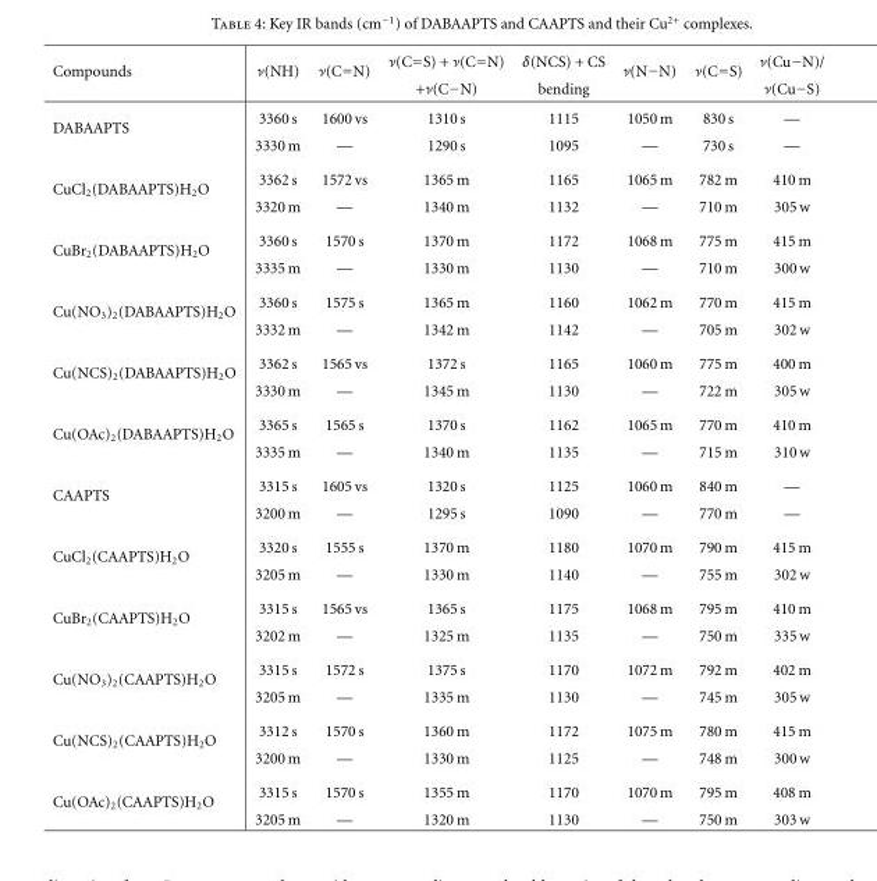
<table><tbody><tr><td rowspan="2">Compounds</td><td rowspan="2">ν(NH)</td><td rowspan="2">ν(C=N)</td><td>ν(C=S) + ν(C=N)</td><td>δ(NCS) + CS</td><td rowspan="2">ν(N−N)</td><td rowspan="2">ν(C=S)</td><td>ν(Cu−N)/</td></tr><tr><td>+ν(C−N)</td><td>bending</td><td>ν(Cu−S)</td></tr><tr><td rowspan="2">DABAAPTS</td><td>3360 s</td><td>1600 vs</td><td>1310 s</td><td>1115</td><td>1050 m</td><td>830 s</td><td>—</td></tr><tr><td>3330 m</td><td>—</td><td>1290 s</td><td>1095</td><td>—</td><td>730 s</td><td>—</td></tr><tr><td rowspan="2">CuCl<sub>2</sub>(DABAAPTS)H<sub>2</sub>O</td><td>3362 s</td><td>1572 vs</td><td>1365 m</td><td>1165</td><td>1065 m</td><td>782 m</td><td>410 m</td></tr><tr><td>3320 m</td><td>—</td><td>1340 m</td><td>1132</td><td>—</td><td>710 m</td><td>305 w</td></tr><tr><td rowspan="2">CuBr<sub>2</sub>(DABAAPTS)H<sub>2</sub>O</td><td>3360 s</td><td>1570 s</td><td>1370 m</td><td>1172</td><td>1068 m</td><td>775 m</td><td>415 m</td></tr><tr><td>3335 m</td><td>—</td><td>1330 m</td><td>1130</td><td>—</td><td>710 m</td><td>300 w</td></tr><tr><td rowspan="2">Cu(NO<sub>3</sub>)<sub>2</sub>(DABAAPTS)H<sub>2</sub>O</td><td>3360 s</td><td>1575 s</td><td>1365 m</td><td>1160</td><td>1062 m</td><td>770 m</td><td>415 m</td></tr><tr><td>3332 m</td><td>—</td><td>1342 m</td><td>1142</td><td>—</td><td>705 m</td><td>302 w</td></tr><tr><td rowspan="2">Cu(NCS)<sub>2</sub>(DABAAPTS)H<sub>2</sub>O</td><td>3362 s</td><td>1565 vs</td><td>1372 s</td><td>1165</td><td>1060 m</td><td>775 m</td><td>400 m</td></tr><tr><td>3330 m</td><td>—</td><td>1345 m</td><td>1130</td><td>—</td><td>722 m</td><td>305 w</td></tr><tr><td rowspan="2">Cu(OAc)<sub>2</sub>(DABAAPTS)H<sub>2</sub>O</td><td>3365 s</td><td>1565 s</td><td>1370 s</td><td>1162</td><td>1065 m</td><td>770 m</td><td>410 m</td></tr><tr><td>3335 m</td><td>—</td><td>1340 m</td><td>1135</td><td>—</td><td>715 m</td><td>310 w</td></tr><tr><td rowspan="2">CAAPTS</td><td>3315 s</td><td>1605 vs</td><td>1320 s</td><td>1125</td><td>1060 m</td><td>840 m</td><td>—</td></tr><tr><td>3200 m</td><td>—</td><td>1295 s</td><td>1090</td><td>—</td><td>770 m</td><td>—</td></tr><tr><td rowspan="2">CuCl<sub>2</sub>(CAAPTS)H<sub>2</sub>O</td><td>3320 s</td><td>1555 s</td><td>1370 m</td><td>1180</td><td>1070 m</td><td>790 m</td><td>415 m</td></tr><tr><td>3205 m</td><td>—</td><td>1330 m</td><td>1140</td><td>—</td><td>755 m</td><td>302 w</td></tr><tr><td rowspan="2">CuBr<sub>2</sub>(CAAPTS)H<sub>2</sub>O</td><td>3315 s</td><td>1565 vs</td><td>1365 s</td><td>1175</td><td>1068 m</td><td>795 m</td><td>410 m</td></tr><tr><td>3202 m</td><td>—</td><td>1325 m</td><td>1135</td><td>—</td><td>750 m</td><td>335 w</td></tr><tr><td rowspan="2">Cu(NO<sub>3</sub>)<sub>2</sub>(CAAPTS)H<sub>2</sub>O</td><td>3315 s</td><td>1572 s</td><td>1375 s</td><td>1170</td><td>1072 m</td><td>792 m</td><td>402 m</td></tr><tr><td>3205 m</td><td>—</td><td>1335 m</td><td>1130</td><td>—</td><td>745 m</td><td>305 w</td></tr><tr><td rowspan="2">Cu(NCS)<sub>2</sub>(CAAPTS)H<sub>2</sub>O</td><td>3312 s</td><td>1570 s</td><td>1360 m</td><td>1172</td><td>1075 m</td><td>780 m</td><td>415 m</td></tr><tr><td>3200 m</td><td>—</td><td>1330 m</td><td>1125</td><td>—</td><td>748 m</td><td>300 w</td></tr><tr><td rowspan="2">Cu(OAc)<sub>2</sub>(CAAPTS)H<sub>2</sub>O</td><td>3315 s</td><td>1570 s</td><td>1355 m</td><td>1170</td><td>1070 m</td><td>795 m</td><td>408 m</td></tr><tr><td>3205 m</td><td>—</td><td>1320 m</td><td>1130</td><td>—</td><td>750 m</td><td>303 w</td></tr></tbody></table>